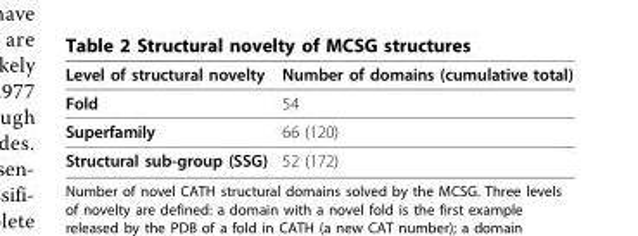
<table><thead><tr><td>Level of structural novelty</td><td>Number of domains (cumulative total)</td></tr></thead><tbody><tr><td>Fold</td><td>54</td></tr><tr><td>Superfamily</td><td>66 (120)</td></tr><tr><td>Structural sub-group (SSG)</td><td>52 (172)</td></tr></tbody></table>